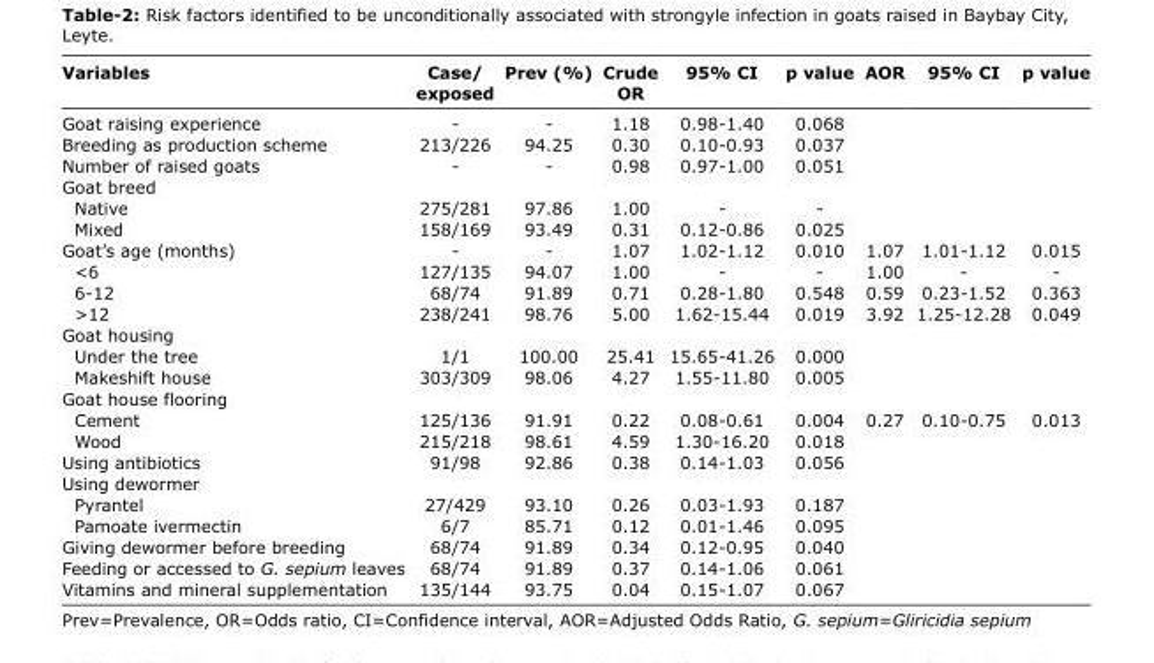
<table><thead><tr><td>Variables</td><td>Case/ exposed</td><td>Prev (%)</td><td>Crude OR</td><td>95% CI</td><td>p value</td><td>AOR</td><td>95% CI</td><td>p value</td></tr></thead><tbody><tr><td>Goat raising experience</td><td>-</td><td>-</td><td>1.18</td><td>0.98-1.40</td><td>0.068</td><td></td><td></td><td></td></tr><tr><td>Breeding as production scheme</td><td>213/226</td><td>94.25</td><td>0.30</td><td>0.10-0.93</td><td>0.037</td><td></td><td></td><td></td></tr><tr><td>Number of raised goats</td><td>-</td><td>-</td><td>0.98</td><td>0.97-1.00</td><td>0.051</td><td></td><td></td><td></td></tr><tr><td colspan="9">Goat breed</td></tr><tr><td>Native</td><td>275/281</td><td>97.86</td><td>1.00</td><td>-</td><td>-</td><td></td><td></td><td></td></tr><tr><td>Mixed</td><td>158/169</td><td>93.49</td><td>0.31</td><td>0.12-0.86</td><td>0.025</td><td></td><td></td><td></td></tr><tr><td>Goat’s age (months)</td><td>-</td><td>-</td><td>1.07</td><td>1.02-1.12</td><td>0.010</td><td>1.07</td><td>1.01-1.12</td><td>0.015</td></tr><tr><td>&lt;6</td><td>127/135</td><td>94.07</td><td>1.00</td><td>-</td><td>-</td><td>1.00</td><td>-</td><td>-</td></tr><tr><td>6-12</td><td>68/74</td><td>91.89</td><td>0.71</td><td>0.28-1.80</td><td>0.548</td><td>0.59</td><td>0.23-1.52</td><td>0.363</td></tr><tr><td>&gt;12</td><td>238/241</td><td>98.76</td><td>5.00</td><td>1.62-15.44</td><td>0.019</td><td>3.92</td><td>1.25-12.28</td><td>0.049</td></tr><tr><td colspan="9">Goat housing</td></tr><tr><td>Under the tree</td><td>1/1</td><td>100.00</td><td>25.41</td><td>15.65-41.26</td><td>0.000</td><td></td><td></td><td></td></tr><tr><td>Makeshift house</td><td>303/309</td><td>98.06</td><td>4.27</td><td>1.55-11.80</td><td>0.005</td><td></td><td></td><td></td></tr><tr><td colspan="9">Goat house flooring</td></tr><tr><td>Cement</td><td>125/136</td><td>91.91</td><td>0.22</td><td>0.08-0.61</td><td>0.004</td><td>0.27</td><td>0.10-0.75</td><td>0.013</td></tr><tr><td>Wood</td><td>215/218</td><td>98.61</td><td>4.59</td><td>1.30-16.20</td><td>0.018</td><td></td><td></td><td></td></tr><tr><td>Using antibiotics</td><td>91/98</td><td>92.86</td><td>0.38</td><td>0.14-1.03</td><td>0.056</td><td></td><td></td><td></td></tr><tr><td colspan="9">Using dewormer</td></tr><tr><td>Pyrantel</td><td>27/429</td><td>93.10</td><td>0.26</td><td>0.03-1.93</td><td>0.187</td><td></td><td></td><td></td></tr><tr><td>Pamoate ivermectin</td><td>6/7</td><td>85.71</td><td>0.12</td><td>0.01-1.46</td><td>0.095</td><td></td><td></td><td></td></tr><tr><td>Giving dewormer before breeding</td><td>68/74</td><td>91.89</td><td>0.34</td><td>0.12-0.95</td><td>0.040</td><td></td><td></td><td></td></tr><tr><td>Feeding or accessed to G. sepium leaves</td><td>68/74</td><td>91.89</td><td>0.37</td><td>0.14-1.06</td><td>0.061</td><td></td><td></td><td></td></tr><tr><td>Vitamins and mineral supplementation</td><td>135/144</td><td>93.75</td><td>0.04</td><td>0.15-1.07</td><td>0.067</td><td></td><td></td><td></td></tr></tbody></table>